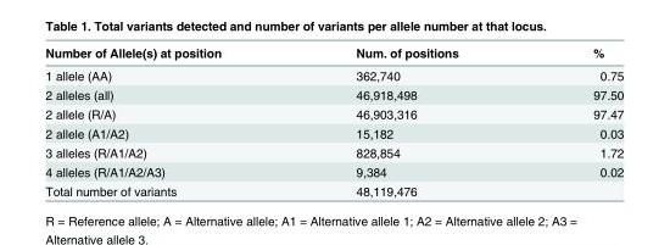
<table><thead><tr><td>Number of Allele(s) at position</td><td>Num. of positions</td><td>%</td></tr></thead><tbody><tr><td>1 allele (AA)</td><td>362,740</td><td>0.75</td></tr><tr><td>2 alleles (all)</td><td>46,918,498</td><td>97.50</td></tr><tr><td>2 allele (R/A)</td><td>46,903,316</td><td>97.47</td></tr><tr><td>2 allele (A1/A2)</td><td>15,182</td><td>0.03</td></tr><tr><td>3 alleles (R/A1/A2)</td><td>828,854</td><td>1.72</td></tr><tr><td>4 alleles (R/A1/A2/A3)</td><td>9,384</td><td>0.02</td></tr><tr><td>Total number of variants</td><td>48,119,476</td><td></td></tr></tbody></table>